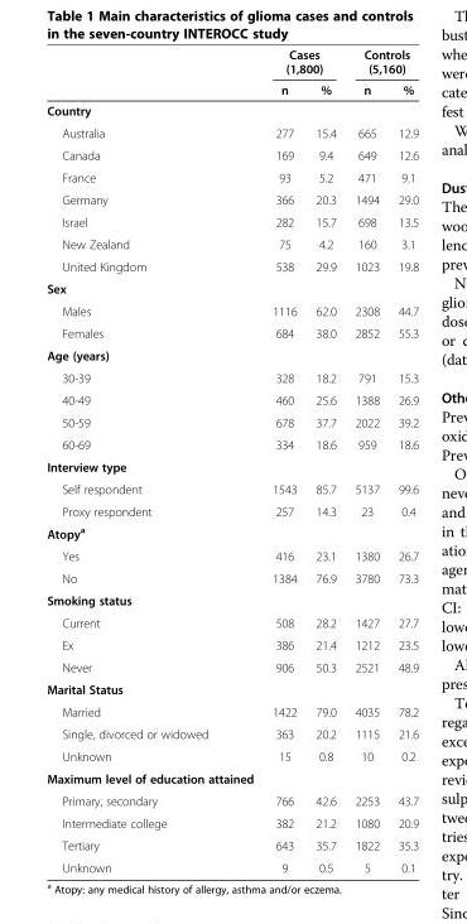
<table><thead><tr><td rowspan="2"></td><td colspan="2">Cases (1,800)</td><td colspan="2">Controls (5,160)</td></tr><tr><td>n</td><td>%</td><td>n</td><td>%</td></tr></thead><tbody><tr><td colspan="5">Country</td></tr><tr><td>Australia</td><td>277</td><td>15.4</td><td>665</td><td>12.9</td></tr><tr><td>Canada</td><td>169</td><td>9.4</td><td>649</td><td>12.6</td></tr><tr><td>France</td><td>93</td><td>5.2</td><td>471</td><td>9.1</td></tr><tr><td>Germany</td><td>366</td><td>20.3</td><td>1494</td><td>29.0</td></tr><tr><td>Israel</td><td>282</td><td>15.7</td><td>698</td><td>13.5</td></tr><tr><td>New Zealand</td><td>75</td><td>4.2</td><td>160</td><td>3.1</td></tr><tr><td>United Kingdom</td><td>538</td><td>29.9</td><td>1023</td><td>19.8</td></tr><tr><td colspan="5">Sex</td></tr><tr><td>Males</td><td>1116</td><td>62.0</td><td>2308</td><td>44.7</td></tr><tr><td>Females</td><td>684</td><td>38.0</td><td>2852</td><td>55.3</td></tr><tr><td colspan="5">Age (years)</td></tr><tr><td>30-39</td><td>328</td><td>18.2</td><td>791</td><td>15.3</td></tr><tr><td>40-49</td><td>460</td><td>25.6</td><td>1388</td><td>26.9</td></tr><tr><td>50-59</td><td>678</td><td>37.7</td><td>2022</td><td>39.2</td></tr><tr><td>60-69</td><td>334</td><td>18.6</td><td>959</td><td>18.6</td></tr><tr><td colspan="5">Interview type</td></tr><tr><td>Self respondent</td><td>1543</td><td>85.7</td><td>5137</td><td>99.6</td></tr><tr><td>Proxy respondent</td><td>257</td><td>14.3</td><td>23</td><td>0.4</td></tr><tr><td colspan="5">Atopy<sup>a</sup></td></tr><tr><td>Yes</td><td>416</td><td>23.1</td><td>1380</td><td>26.7</td></tr><tr><td>No</td><td>1384</td><td>76.9</td><td>3780</td><td>73.3</td></tr><tr><td colspan="5">Smoking status</td></tr><tr><td>Current</td><td>508</td><td>28.2</td><td>1427</td><td>27.7</td></tr><tr><td>Ex</td><td>386</td><td>21.4</td><td>1212</td><td>23.5</td></tr><tr><td>Never</td><td>906</td><td>50.3</td><td>2521</td><td>48.9</td></tr><tr><td colspan="5">Marital Status</td></tr><tr><td>Married</td><td>1422</td><td>79.0</td><td>4035</td><td>78.2</td></tr><tr><td>Single, divorced or widowed</td><td>363</td><td>20.2</td><td>1115</td><td>21.6</td></tr><tr><td>Unknown</td><td>15</td><td>0.8</td><td>10</td><td>0.2</td></tr><tr><td colspan="5">Maximum level of education attained</td></tr><tr><td>Primary, secondary</td><td>766</td><td>42.6</td><td>2253</td><td>43.7</td></tr><tr><td>Intermediate college</td><td>382</td><td>21.2</td><td>1080</td><td>20.9</td></tr><tr><td>Tertiary</td><td>643</td><td>35.7</td><td>1822</td><td>35.3</td></tr><tr><td>Unknown</td><td>9</td><td>0.5</td><td>5</td><td>0.1</td></tr></tbody></table>